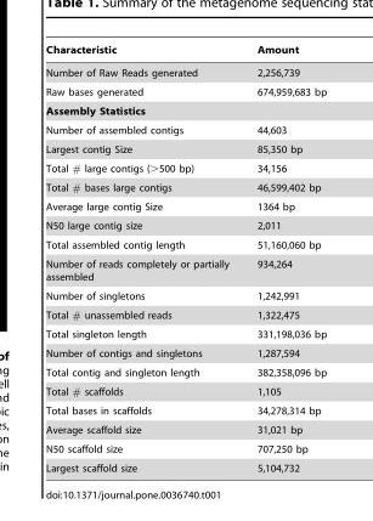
<table><thead><tr><td>Characteristic</td><td>Amount</td></tr></thead><tbody><tr><td>Number of Raw Reads generated</td><td>2,256,739</td></tr><tr><td>Raw bases generated</td><td>674,959,683 bp</td></tr><tr><td colspan="2">Assembly Statistics</td></tr><tr><td>Number of assembled contigs</td><td>44,603</td></tr><tr><td>Largest contig Size</td><td>85,350 bp</td></tr><tr><td>Total # large contigs (&gt;500 bp)</td><td>34,156</td></tr><tr><td>Total # bases large contigs</td><td>46,599,402 bp</td></tr><tr><td>Average large contig Size</td><td>1364 bp</td></tr><tr><td>N50 large contig size</td><td>2,011</td></tr><tr><td>Total assembled contig length</td><td>51,160,060 bp</td></tr><tr><td>Number of reads completely or partially assembled</td><td>934,264</td></tr><tr><td>Number of singletons</td><td>1,242,991</td></tr><tr><td>Total # unassembled reads</td><td>1,322,475</td></tr><tr><td>Total singleton length</td><td>331,198,036 bp</td></tr><tr><td>Number of contigs and singletons</td><td>1,287,594</td></tr><tr><td>Total contig and singleton length</td><td>382,358,096 bp</td></tr><tr><td>Total # scaffolds</td><td>1,105</td></tr><tr><td>Total bases in scaffolds</td><td>34,278,314 bp</td></tr><tr><td>Average scaffold size</td><td>31,021 bp</td></tr><tr><td>N50 scaffold size</td><td>707,250 bp</td></tr><tr><td>Largest scaffold size</td><td>5,104,732</td></tr></tbody></table>